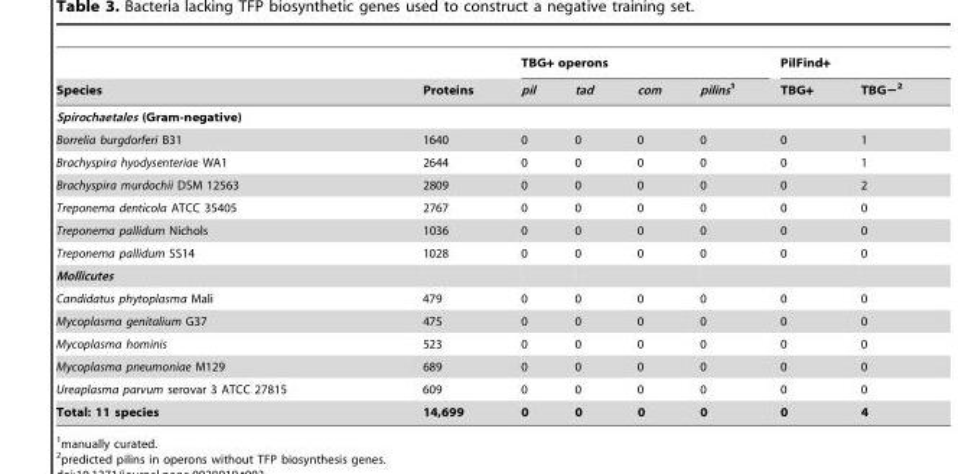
<table><thead><tr><td rowspan="2">Species</td><td rowspan="2">Proteins</td><td colspan="4">TBG+ operons</td><td colspan="2">PilFind+</td></tr><tr><td>pil</td><td>tad</td><td>com</td><td>pilins1</td><td>TBG+</td><td>TBG−2</td></tr></thead><tbody><tr><td colspan="8">Spirochaetales (Gram-negative)</td></tr><tr><td>Borrelia burgdorferi B31</td><td>1640</td><td>0</td><td>0</td><td>0</td><td>0</td><td>0</td><td>1</td></tr><tr><td>Brachyspira hyodysenteriae WA1</td><td>2644</td><td>0</td><td>0</td><td>0</td><td>0</td><td>0</td><td>1</td></tr><tr><td>Brachyspira murdochii DSM 12563</td><td>2809</td><td>0</td><td>0</td><td>0</td><td>0</td><td>0</td><td>2</td></tr><tr><td>Treponema denticola ATCC 35405</td><td>2767</td><td>0</td><td>0</td><td>0</td><td>0</td><td>0</td><td>0</td></tr><tr><td>Treponema pallidum Nichols</td><td>1036</td><td>0</td><td>0</td><td>0</td><td>0</td><td>0</td><td>0</td></tr><tr><td>Treponema pallidum SS14</td><td>1028</td><td>0</td><td>0</td><td>0</td><td>0</td><td>0</td><td>0</td></tr><tr><td colspan="8">Mollicutes</td></tr><tr><td>Candidatus phytoplasma Mali</td><td>479</td><td>0</td><td>0</td><td>0</td><td>0</td><td>0</td><td>0</td></tr><tr><td>Mycoplasma genitalium G37</td><td>475</td><td>0</td><td>0</td><td>0</td><td>0</td><td>0</td><td>0</td></tr><tr><td>Mycoplasma hominis</td><td>523</td><td>0</td><td>0</td><td>0</td><td>0</td><td>0</td><td>0</td></tr><tr><td>Mycoplasma pneumoniae M129</td><td>689</td><td>0</td><td>0</td><td>0</td><td>0</td><td>0</td><td>0</td></tr><tr><td>Ureaplasma parvum serovar 3 ATCC 27815</td><td>609</td><td>0</td><td>0</td><td>0</td><td>0</td><td>0</td><td>0</td></tr><tr><td>Total: 11 species</td><td>14,699</td><td>0</td><td>0</td><td>0</td><td>0</td><td>0</td><td>4</td></tr></tbody></table>